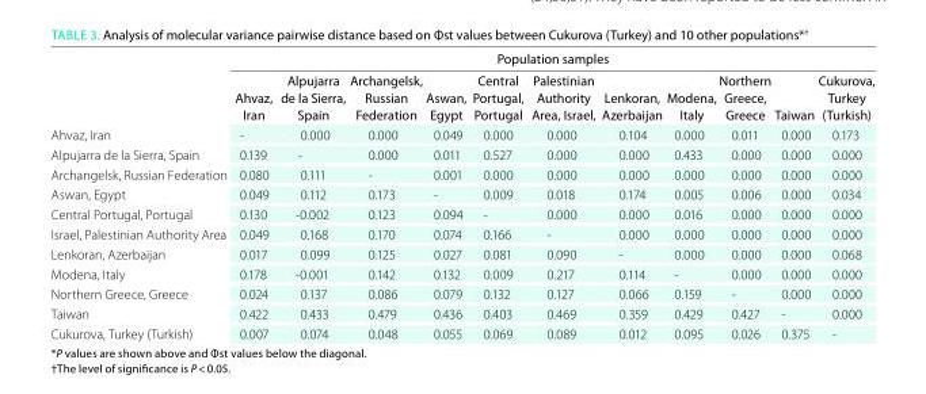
<table><thead><tr><td rowspan="2"></td><td colspan="11">Population samples</td></tr><tr><td>Ahvaz, Iran</td><td>Alpujarra de la Sierra, Spain</td><td>Archangelsk, russian Federation</td><td>Aswan, egypt</td><td>Central Portugal, Portugal</td><td>Palestinian Authority Area, Israel,</td><td>lenkoran, Azerbaijan</td><td>modena, Italy</td><td>northern Greece, Greece</td><td>Taiwan</td><td>Cukurova, Turkey (Turkish)</td></tr></thead><tbody><tr><td>Ahvaz, Iran</td><td>-</td><td>0.000</td><td>0.000</td><td>0.049</td><td>0.000</td><td>0.000</td><td>0.104</td><td>0.000</td><td>0.011</td><td>0.000</td><td>0.173</td></tr><tr><td>Alpujarra de la Sierra, Spain</td><td>0.139</td><td>-</td><td>0.000</td><td>0.011</td><td>0.527</td><td>0.000</td><td>0.000</td><td>0.433</td><td>0.000</td><td>0.000</td><td>0.000</td></tr><tr><td>Archangelsk, Russian Federation</td><td>0.080</td><td>0.111</td><td>-</td><td>0.001</td><td>0.000</td><td>0.000</td><td>0.000</td><td>0.000</td><td>0.000</td><td>0.000</td><td>0.000</td></tr><tr><td>Aswan, Egypt</td><td>0.049</td><td>0.112</td><td>0.173</td><td>-</td><td>0.009</td><td>0.018</td><td>0.174</td><td>0.005</td><td>0.006</td><td>0.000</td><td>0.034</td></tr><tr><td>Central Portugal, Portugal</td><td>0.130</td><td>-0.002</td><td>0.123</td><td>0.094</td><td>-</td><td>0.000</td><td>0.000</td><td>0.016</td><td>0.000</td><td>0.000</td><td>0.000</td></tr><tr><td>Israel, Palestinian Authority Area</td><td>0.049</td><td>0.168</td><td>0.170</td><td>0.074</td><td>0.166</td><td>-</td><td>0.000</td><td>0.000</td><td>0.000</td><td>0.000</td><td>0.000</td></tr><tr><td>Lenkoran, Azerbaijan</td><td>0.017</td><td>0.099</td><td>0.125</td><td>0.027</td><td>0.081</td><td>0.090</td><td>-</td><td>0.000</td><td>0.000</td><td>0.000</td><td>0.068</td></tr><tr><td>Modena, Italy</td><td>0.178</td><td>-0.001</td><td>0.142</td><td>0.132</td><td>0.009</td><td>0.217</td><td>0.114</td><td>-</td><td>0.000</td><td>0.000</td><td>0.000</td></tr><tr><td>Northern Greece, Greece</td><td>0.024</td><td>0.137</td><td>0.086</td><td>0.079</td><td>0.132</td><td>0.127</td><td>0.066</td><td>0.159</td><td>-</td><td>0.000</td><td>0.000</td></tr><tr><td>Taiwan</td><td>0.422</td><td>0.433</td><td>0.479</td><td>0.436</td><td>0.403</td><td>0.469</td><td>0.359</td><td>0.429</td><td>0.427</td><td>-</td><td>0.000</td></tr><tr><td>Cukurova, Turkey (Turkish)</td><td>0.007</td><td>0.074</td><td>0.048</td><td>0.055</td><td>0.069</td><td>0.089</td><td>0.012</td><td>0.095</td><td>0.026</td><td>0.375</td><td>-</td></tr></tbody></table>